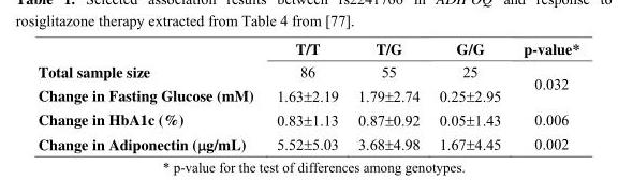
<table><thead><tr><td></td><td>T/T</td><td>T/G</td><td>G/G</td><td>p-value*</td></tr></thead><tbody><tr><td>Total sample size</td><td>86</td><td>55</td><td>25</td><td rowspan="2">0.032</td></tr><tr><td>Change in Fasting Glucose (mM)</td><td>1.63±2.19</td><td>1.79±2.74</td><td>0.25±2.95</td></tr><tr><td>Change in HbA1c (%)</td><td>0.83±1.13</td><td>0.87±0.92</td><td>0.05±1.43</td><td>0.006</td></tr><tr><td>Change in Adiponectin (μg/mL)</td><td>5.52±5.03</td><td>3.68±4.98</td><td>1.67±4.45</td><td>0.002</td></tr></tbody></table>